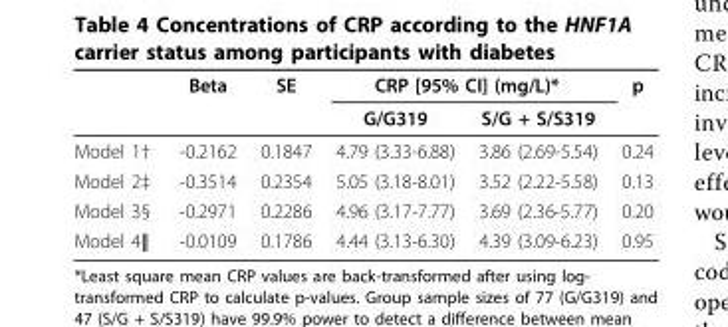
<table><thead><tr><td rowspan="2"></td><td rowspan="2">Beta</td><td rowspan="2">SE</td><td colspan="2">CRP [95% CI] (mg/L)*</td><td rowspan="2">p</td></tr><tr><td>G/G319</td><td>S/G + S/S319</td></tr></thead><tbody><tr><td>Model 1†</td><td>-0.2162</td><td>0.1847</td><td>4.79 (3.33-6.88)</td><td>3.86 (2.69-5.54)</td><td>0.24</td></tr><tr><td>Model 2‡</td><td>-0.3514</td><td>0.2354</td><td>5.05 (3.18-8.01)</td><td>3.52 (2.22-5.58)</td><td>0.13</td></tr><tr><td>Model 3§</td><td>-0.2971</td><td>0.2286</td><td>4.96 (3.17-7.77)</td><td>3.69 (2.36-5.77)</td><td>0.20</td></tr><tr><td>Model 4∥</td><td>-0.0109</td><td>0.1786</td><td>4.44 (3.13-6.30)</td><td>4.39 (3.09-6.23)</td><td>0.95</td></tr></tbody></table>